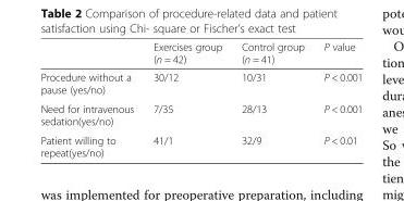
<table><thead><tr><td></td><td>Exercises group (n = 42)</td><td>Control group (n = 41)</td><td>P value</td></tr></thead><tbody><tr><td>Procedure without a pause (yes/no)</td><td>30/12</td><td>10/31</td><td>P &lt; 0.001</td></tr><tr><td>Need for intravenous sedation(yes/no)</td><td>7/35</td><td>28/13</td><td>P &lt; 0.001</td></tr><tr><td>Patient willing to repeat(yes/no)</td><td>41/1</td><td>32/9</td><td>P &lt; 0.01</td></tr></tbody></table>